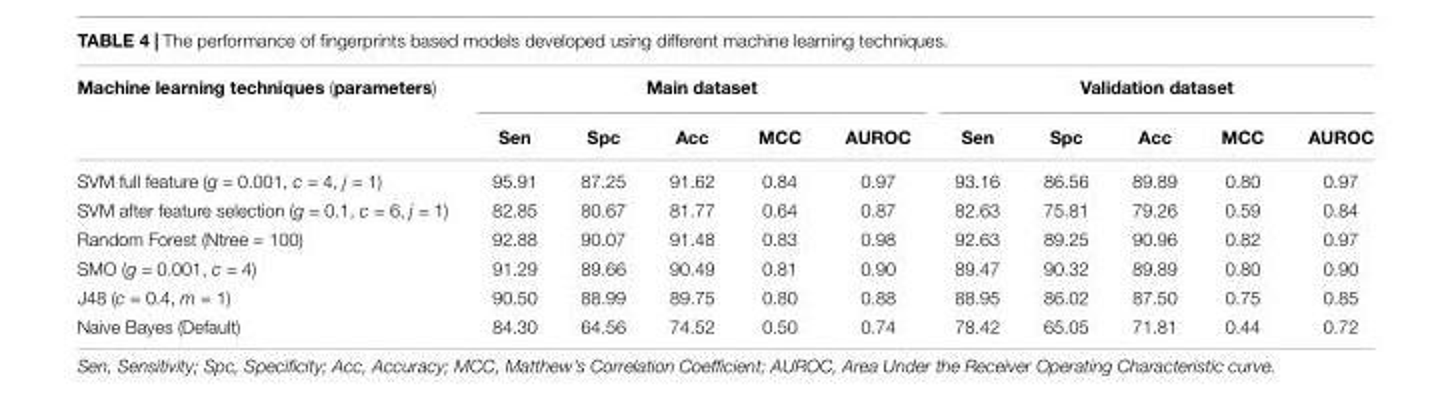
<table><thead><tr><td rowspan="2">Machine learning techniques (parameters)</td><td colspan="5">Main dataset</td><td colspan="5">Validation dataset</td></tr><tr><td>Sen</td><td>Spc</td><td>Acc</td><td>MCC</td><td>AUROC</td><td>Sen</td><td>Spc</td><td>Acc</td><td>MCC</td><td>AUROC</td></tr></thead><tbody><tr><td>SVM full feature (g = 0.001, c = 4, j = 1)</td><td>95.91</td><td>87.25</td><td>91.62</td><td>0.84</td><td>0.97</td><td>93.16</td><td>86.56</td><td>89.89</td><td>0.80</td><td>0.97</td></tr><tr><td>SVM after feature selection (g = 0.1, c = 6, j = 1)</td><td>82.85</td><td>80.67</td><td>81.77</td><td>0.64</td><td>0.87</td><td>82.63</td><td>75.81</td><td>79.26</td><td>0.59</td><td>0.84</td></tr><tr><td>Random Forest (Ntree = 100)</td><td>92.88</td><td>90.07</td><td>91.48</td><td>0.83</td><td>0.98</td><td>92.63</td><td>89.25</td><td>90.96</td><td>0.82</td><td>0.97</td></tr><tr><td>SMO (g = 0.001, c = 4)</td><td>91.29</td><td>89.66</td><td>90.49</td><td>0.81</td><td>0.90</td><td>89.47</td><td>90.32</td><td>89.89</td><td>0.80</td><td>0.90</td></tr><tr><td>J48 (c = 0.4, m = 1)</td><td>90.50</td><td>88.99</td><td>89.75</td><td>0.80</td><td>0.88</td><td>88.95</td><td>86.02</td><td>87.50</td><td>0.75</td><td>0.85</td></tr><tr><td>Naive Bayes (Default)</td><td>84.30</td><td>64.56</td><td>74.52</td><td>0.50</td><td>0.74</td><td>78.42</td><td>65.05</td><td>71.81</td><td>0.44</td><td>0.72</td></tr></tbody></table>